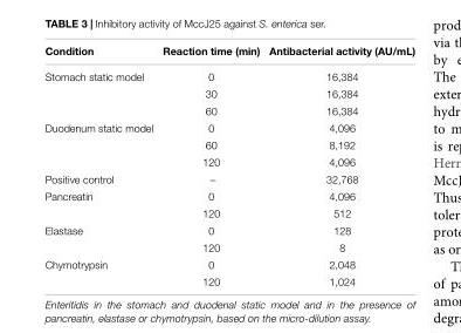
<table><thead><tr><td>Condition</td><td>Reaction time (min)</td><td>Antibacterial activity (AU/mL)</td></tr></thead><tbody><tr><td rowspan="3">Stomach static model</td><td>0</td><td>16,384</td></tr><tr><td>30</td><td>16,384</td></tr><tr><td>60</td><td>16,384</td></tr><tr><td rowspan="3">Duodenum static model</td><td>0</td><td>4,096</td></tr><tr><td>60</td><td>8,192</td></tr><tr><td>120</td><td>4,096</td></tr><tr><td>Positive control</td><td>–</td><td>32,768</td></tr><tr><td rowspan="2">Pancreatin</td><td>0</td><td>4,096</td></tr><tr><td>120</td><td>512</td></tr><tr><td rowspan="2">Elastase</td><td>0</td><td>128</td></tr><tr><td>120</td><td>8</td></tr><tr><td rowspan="2">Chymotrypsin</td><td>0</td><td>2,048</td></tr><tr><td>120</td><td>1,024</td></tr></tbody></table>